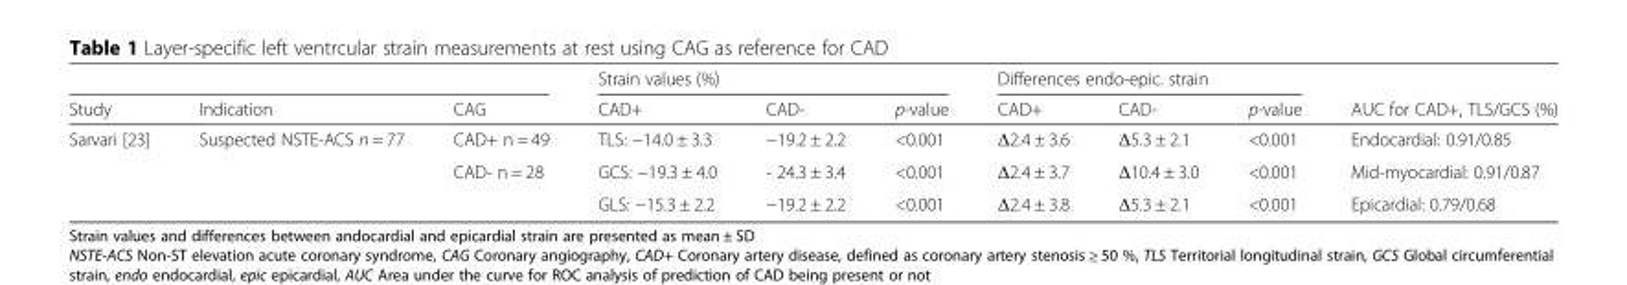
<table><thead><tr><td rowspan="2">Study</td><td rowspan="2">Indication</td><td rowspan="2">CAG</td><td colspan="3">Strain values (%)</td><td colspan="3">Differences endo-epic. strain</td><td rowspan="2">AUC for CAD+, TLS/GCS (%)</td></tr><tr><td>CAD+</td><td>CAD-</td><td>p-value</td><td>CAD+</td><td>CAD-</td><td>p-value</td></tr></thead><tbody><tr><td rowspan="3">Sarvari [23]</td><td rowspan="3">Suspected NSTE-ACS n = 77</td><td>CAD+ n = 49</td><td>TLS: −14.0 ± 3.3</td><td>−19.2 ± 2.2</td><td>&lt;0.001</td><td>Δ2.4 ± 3.6</td><td>Δ5.3 ± 2.1</td><td>&lt;0.001</td><td>Endocardial: 0.91/0.85</td></tr><tr><td>CAD- n = 28</td><td>GCS: −19.3 ± 4.0</td><td>- 24.3 ± 3.4</td><td>&lt;0.001</td><td>Δ2.4 ± 3.7</td><td>Δ10.4 ± 3.0</td><td>&lt;0.001</td><td>Mid-myocardial: 0.91/0.87</td></tr><tr><td></td><td>GLS: −15.3 ± 2.2</td><td>−19.2 ± 2.2</td><td>&lt;0.001</td><td>Δ2.4 ± 3.8</td><td>Δ5.3 ± 2.1</td><td>&lt;0.001</td><td>Epicardial: 0.79/0.68</td></tr></tbody></table>